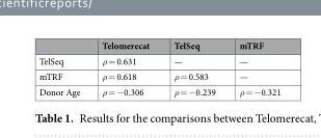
<table><thead><tr><td></td><td>Telomerecat</td><td>TelSeq</td><td>mTRF</td></tr></thead><tbody><tr><td>TelSeq</td><td>ρ = 0.631</td><td>—</td><td>—</td></tr><tr><td>mTRF</td><td>ρ = 0.618</td><td>ρ = 0.583</td><td>—</td></tr><tr><td>Donor Age</td><td>ρ = −0.306</td><td>ρ = −0.239</td><td>ρ = −0.321</td></tr></tbody></table>